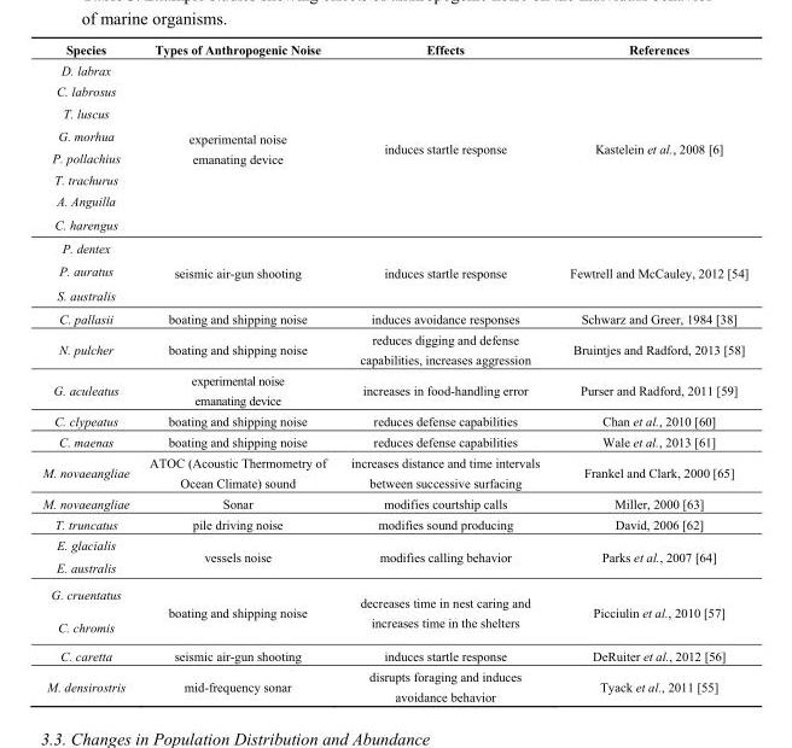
<table><thead><tr><td>Species</td><td>Types of Anthropogenic Noise</td><td>Effects</td><td>References</td></tr></thead><tbody><tr><td>D. labrax</td><td rowspan="8">experimental noise emanating device</td><td rowspan="8">induces startle response</td><td rowspan="8">Kastelein et al., 2008 [6]</td></tr><tr><td>C. labrosus</td></tr><tr><td>T. luscus</td></tr><tr><td>G. morhua</td></tr><tr><td>P. pollachius</td></tr><tr><td>T. trachurus</td></tr><tr><td>A. Anguilla</td></tr><tr><td>C. harengus</td></tr><tr><td>P. dentex</td><td rowspan="3">seismic air-gun shooting</td><td rowspan="3">induces startle response</td><td rowspan="3">Fewtrell and McCauley, 2012 [54]</td></tr><tr><td>P. auratus</td></tr><tr><td>S. australis</td></tr><tr><td>C. pallasii</td><td>boating and shipping noise</td><td>induces avoidance responses</td><td>Schwarz and Greer, 1984 [38]</td></tr><tr><td>N. pulcher</td><td>boating and shipping noise</td><td>reduces digging and defense capabilities, increases aggression</td><td>Bruintjes and Radford, 2013 [58]</td></tr><tr><td>G. aculeatus</td><td>experimental noise emanating device</td><td>increases in food-handling error</td><td>Purser and Radford, 2011 [59]</td></tr><tr><td>C. clypeatus</td><td>boating and shipping noise</td><td>reduces defense capabilities</td><td>Chan et al., 2010 [60]</td></tr><tr><td>C. maenas</td><td>boating and shipping noise</td><td>reduces defense capabilities</td><td>Wale et al., 2013 [61]</td></tr><tr><td>M. novaeangliae</td><td>ATOC (Acoustic Thermometry of Ocean Climate) sound</td><td>increases distance and time intervals between successive surfacing</td><td>Frankel and Clark, 2000 [65]</td></tr><tr><td>M. novaeangliae</td><td>Sonar</td><td>modifies courtship calls</td><td>Miller, 2000 [63]</td></tr><tr><td>T. truncatus</td><td>pile driving noise</td><td>modifies sound producing</td><td>David, 2006 [62]</td></tr><tr><td>E. glacialis</td><td rowspan="2">vessels noise</td><td rowspan="2">modifies calling behavior</td><td rowspan="2">Parks et al., 2007 [64]</td></tr><tr><td>E. australis</td></tr><tr><td>G. cruentatus</td><td rowspan="2">boating and shipping noise</td><td rowspan="2">decreases time in nest caring and increases time in the shelters</td><td rowspan="2">Picciulin et al., 2010 [57]</td></tr><tr><td>C. chromis</td></tr><tr><td>C. caretta</td><td>seismic air-gun shooting</td><td>induces startle response</td><td>DeRuiter et al., 2012 [56]</td></tr><tr><td>M. densirostris</td><td>mid-frequency sonar</td><td>disrupts foraging and induces avoidance behavior</td><td>Tyack et al., 2011 [55]</td></tr></tbody></table>